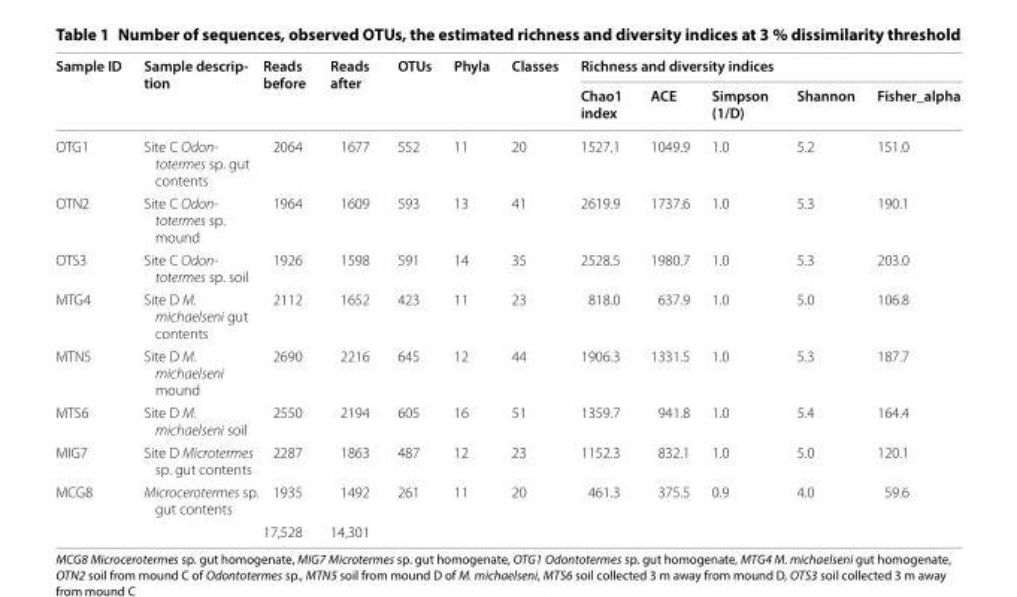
<table><thead><tr><td rowspan="2">Sample ID</td><td rowspan="2">Sample descrip‑ tion</td><td rowspan="2">Reads before</td><td rowspan="2">Reads after</td><td rowspan="2">OTUs</td><td rowspan="2">Phyla</td><td rowspan="2">Classes</td><td colspan="5">Richness and diversity indices</td></tr><tr><td>Chao1 index</td><td>ACE</td><td>Simpson (1/D)</td><td>Shannon</td><td>Fisher_alpha</td></tr></thead><tbody><tr><td>OTG1</td><td>Site C Odon- totermes sp. gut contents</td><td>2064</td><td>1677</td><td>552</td><td>11</td><td>20</td><td>1527.1</td><td>1049.9</td><td>1.0</td><td>5.2</td><td>151.0</td></tr><tr><td>OTN2</td><td>Site C Odon- totermes sp. mound</td><td>1964</td><td>1609</td><td>593</td><td>13</td><td>41</td><td>2619.9</td><td>1737.6</td><td>1.0</td><td>5.3</td><td>190.1</td></tr><tr><td>OTS3</td><td>Site C Odon- totermes sp. soil</td><td>1926</td><td>1598</td><td>591</td><td>14</td><td>35</td><td>2528.5</td><td>1980.7</td><td>1.0</td><td>5.3</td><td>203.0</td></tr><tr><td>MTG4</td><td>Site D M. michaelseni gut contents</td><td>2112</td><td>1652</td><td>423</td><td>11</td><td>23</td><td>818.0</td><td>637.9</td><td>1.0</td><td>5.0</td><td>106.8</td></tr><tr><td>MTN5</td><td>Site D M. michaelseni mound</td><td>2690</td><td>2216</td><td>645</td><td>12</td><td>44</td><td>1906.3</td><td>1331.5</td><td>1.0</td><td>5.3</td><td>187.7</td></tr><tr><td>MTS6</td><td>Site D M. michaelseni soil</td><td>2550</td><td>2194</td><td>605</td><td>16</td><td>51</td><td>1359.7</td><td>941.8</td><td>1.0</td><td>5.4</td><td>164.4</td></tr><tr><td>MIG7</td><td>Site D Microtermes sp. gut contents</td><td>2287</td><td>1863</td><td>487</td><td>12</td><td>23</td><td>1152.3</td><td>832.1</td><td>1.0</td><td>5.0</td><td>120.1</td></tr><tr><td rowspan="2">MCG8</td><td>Microcerotermes sp. gut contents</td><td>1935</td><td>1492</td><td>261</td><td>11</td><td>20</td><td>461.3</td><td>375.5</td><td>0.9</td><td>4.0</td><td>59.6</td></tr><tr><td></td><td>17,528</td><td>14,301</td><td></td><td></td><td></td><td></td><td></td><td></td><td></td><td></td></tr></tbody></table>